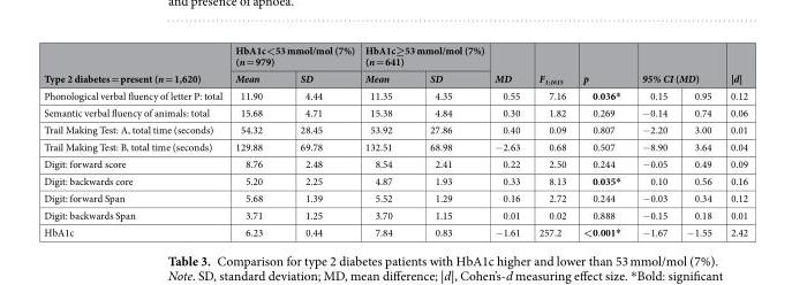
<table><thead><tr><td rowspan="3">Type 2 diabetes = present (n = 1,620) Phonological verbal fluency of letter P: total</td><td colspan="2">HbA1c&lt;53 mmol/mol (7%) (n = 979)</td><td colspan="2">HbA1c≥53 mmol/mol (7%) (n = 641)</td><td rowspan="3">MD 0.55</td><td rowspan="3">F<sub>1;1615</sub> 7.16</td><td rowspan="3">p 0.036*</td><td rowspan="2" colspan="2">95% CI (MD)</td><td rowspan="3">|d| 0.12</td></tr><tr><td rowspan="2">Mean 11.90</td><td rowspan="2">SD 4.44</td><td rowspan="2">Mean 11.35</td><td rowspan="2">SD 4.35</td></tr><tr><td>0.15</td><td>0.95</td></tr></thead><tbody><tr><td>Semantic verbal fluency of animals: total</td><td>15.68</td><td>4.71</td><td>15.38</td><td>4.84</td><td>0.30</td><td>1.82</td><td>0.269</td><td>−0.14</td><td>0.74</td><td>0.06</td></tr><tr><td>Trail Making Test: A, total time (seconds)</td><td>54.32</td><td>28.45</td><td>53.92</td><td>27.86</td><td>0.40</td><td>0.09</td><td>0.807</td><td>−2.20</td><td>3.00</td><td>0.01</td></tr><tr><td>Trail Making Test: B, total time (seconds)</td><td>129.88</td><td>69.78</td><td>132.51</td><td>68.98</td><td>−2.63</td><td>0.68</td><td>0.507</td><td>−8.90</td><td>3.64</td><td>0.04</td></tr><tr><td>Digit: forward score</td><td>8.76</td><td>2.48</td><td>8.54</td><td>2.41</td><td>0.22</td><td>2.50</td><td>0.244</td><td>−0.05</td><td>0.49</td><td>0.09</td></tr><tr><td>Digit: backwards core</td><td>5.20</td><td>2.25</td><td>4.87</td><td>1.93</td><td>0.33</td><td>8.13</td><td>0.035*</td><td>0.10</td><td>0.56</td><td>0.16</td></tr><tr><td>Digit: forward Span</td><td>5.68</td><td>1.39</td><td>5.52</td><td>1.29</td><td>0.16</td><td>2.72</td><td>0.244</td><td>−0.03</td><td>0.34</td><td>0.12</td></tr><tr><td>Digit: backwards Span</td><td>3.71</td><td>1.25</td><td>3.70</td><td>1.15</td><td>0.01</td><td>0.02</td><td>0.888</td><td>−0.15</td><td>0.18</td><td>0.01</td></tr><tr><td>HbA1c</td><td>6.23</td><td>0.44</td><td>7.84</td><td>0.83</td><td>−1.61</td><td>257.2</td><td>&lt;0.001*</td><td>−1.67</td><td>−1.55</td><td>2.42</td></tr></tbody></table>